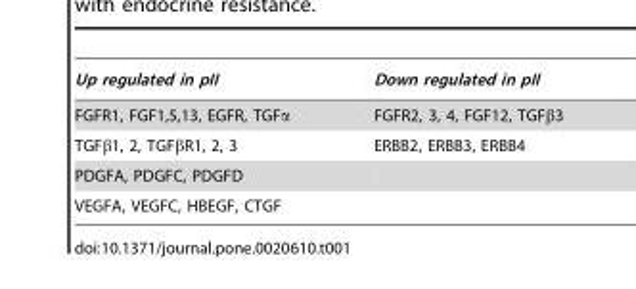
<table><thead><tr><td>Up regulated in pII</td><td>Down regulated in pII</td></tr></thead><tbody><tr><td>FGFR1, FGF1,5,13, EGFR, TGFα</td><td>FGFR2, 3, 4, FGF12, TGFβ3</td></tr><tr><td>TGFβ1, 2, TGFβR1, 2, 3</td><td>ERBB2, ERBB3, ERBB4</td></tr><tr><td colspan="2">PDGFA, PDGFC, PDGFD</td></tr><tr><td>VEGFA, VEGFC, HBEGF, CTGF</td><td></td></tr></tbody></table>